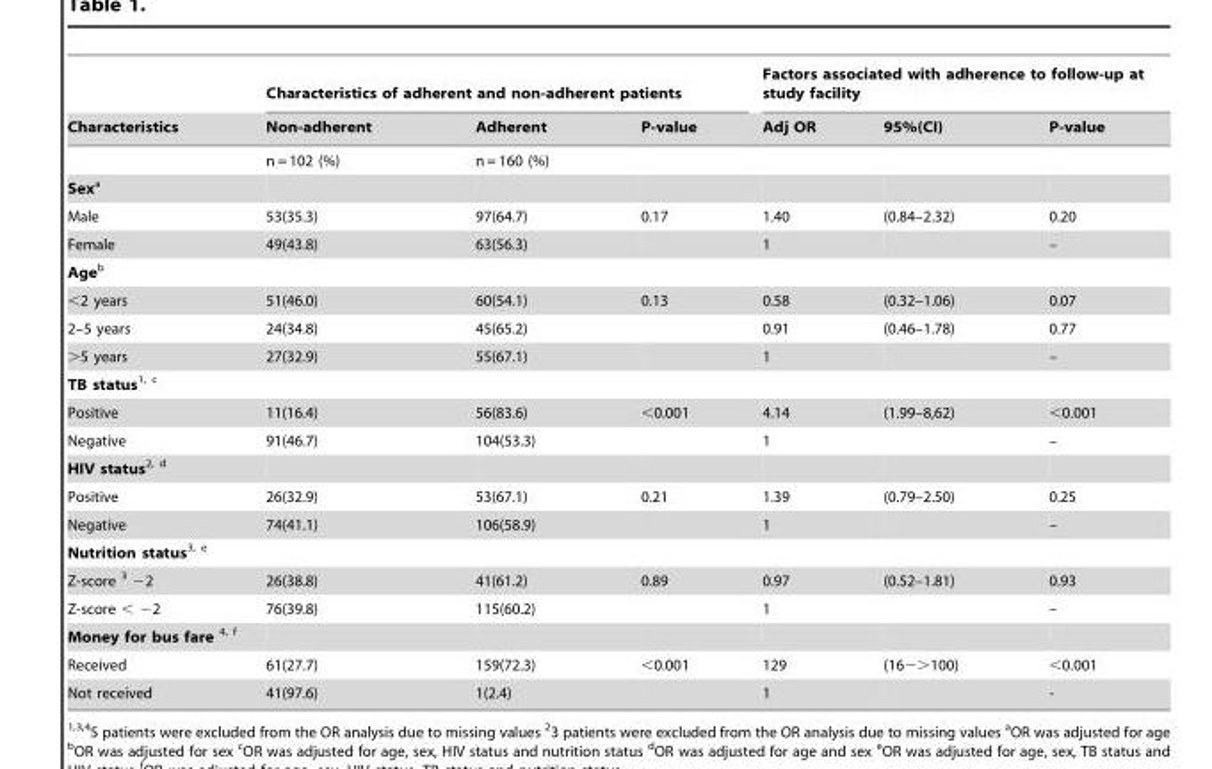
<table><thead><tr><td rowspan="2">Characteristics</td><td colspan="3">Characteristics of adherent and non-adherent patients</td><td colspan="3">Factors associated with adherence to follow-up at study facility</td></tr><tr><td>Non-adherent</td><td>Adherent</td><td>P-value</td><td>Adj OR</td><td>95%(CI)</td><td>P-value</td></tr></thead><tbody><tr><td></td><td>n = 102 (%)</td><td>n = 160 (%)</td><td></td><td></td><td></td><td></td></tr><tr><td colspan="7">Sex<sup>a</sup></td></tr><tr><td>Male</td><td>53(35.3)</td><td>97(64.7)</td><td>0.17</td><td>1.40</td><td>(0.84–2.32)</td><td>0.20</td></tr><tr><td>Female</td><td>49(43.8)</td><td>63(56.3)</td><td></td><td>1</td><td></td><td>–</td></tr><tr><td colspan="7">Age<sup>b</sup></td></tr><tr><td>&lt;2 years</td><td>51(46.0)</td><td>60(54.1)</td><td>0.13</td><td>0.58</td><td>(0.32–1.06)</td><td>0.07</td></tr><tr><td>2–5 years</td><td>24(34.8)</td><td>45(65.2)</td><td></td><td>0.91</td><td>(0.46–1.78)</td><td>0.77</td></tr><tr><td>&gt;5 years</td><td>27(32.9)</td><td>55(67.1)</td><td></td><td>1</td><td></td><td>–</td></tr><tr><td colspan="7">TB status<sup>1, c</sup></td></tr><tr><td>Positive</td><td>11(16.4)</td><td>56(83.6)</td><td>&lt;0.001</td><td>4.14</td><td>(1.99–8,62)</td><td>&lt;0.001</td></tr><tr><td>Negative</td><td>91(46.7)</td><td>104(53.3)</td><td></td><td>1</td><td></td><td>–</td></tr><tr><td colspan="7">HIV status<sup>2, d</sup></td></tr><tr><td>Positive</td><td>26(32.9)</td><td>53(67.1)</td><td>0.21</td><td>1.39</td><td>(0.79–2.50)</td><td>0.25</td></tr><tr><td>Negative</td><td>74(41.1)</td><td>106(58.9)</td><td></td><td>1</td><td></td><td>–</td></tr><tr><td colspan="7">Nutrition status<sup>3, e</sup></td></tr><tr><td>Z-score <sup>3</sup> −2</td><td>26(38.8)</td><td>41(61.2)</td><td>0.89</td><td>0.97</td><td>(0.52–1.81)</td><td>0.93</td></tr><tr><td>Z-score &lt; −2</td><td>76(39.8)</td><td>115(60.2)</td><td></td><td>1</td><td></td><td>–</td></tr><tr><td colspan="7">Money for bus fare <sup>4, f</sup></td></tr><tr><td>Received</td><td>61(27.7)</td><td>159(72.3)</td><td>&lt;0.001</td><td>129</td><td>(16−&gt;100)</td><td>&lt;0.001</td></tr><tr><td>Not received</td><td>41(97.6)</td><td>1(2.4)</td><td></td><td>1</td><td></td><td>-</td></tr></tbody></table>